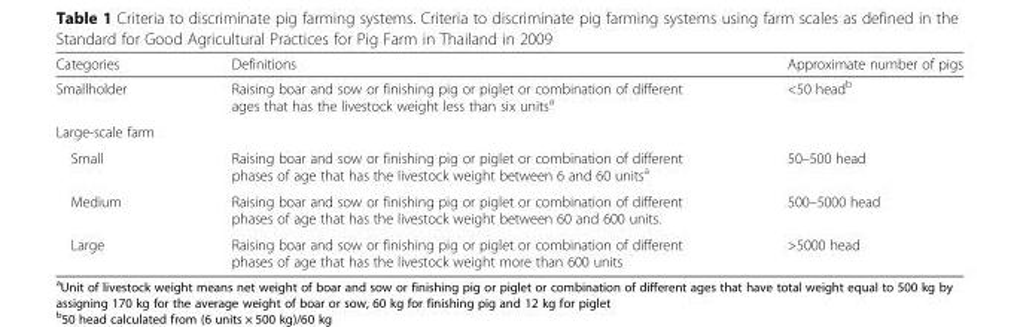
<table><thead><tr><td>Categories</td><td>Definitions</td><td>Approximate number of pigs</td></tr></thead><tbody><tr><td>Smallholder</td><td>Raising boar and sow or finishing pig or piglet or combination of different ages that has the livestock weight less than six units<sup>a</sup></td><td>&lt;50 head<sup>b</sup></td></tr><tr><td colspan="3">Large-scale farm</td></tr><tr><td>Small</td><td>Raising boar and sow or finishing pig or piglet or combination of different phases of age that has the livestock weight between 6 and 60 units<sup>a</sup></td><td>50–500 head</td></tr><tr><td>Medium</td><td>Raising boar and sow or finishing pig or piglet or combination of different phases of age that has the livestock weight between 60 and 600 units.</td><td>500–5000 head</td></tr><tr><td>Large</td><td>Raising boar and sow or finishing pig or piglet or combination of different phases of age that has the livestock weight more than 600 units</td><td>&gt;5000 head</td></tr></tbody></table>